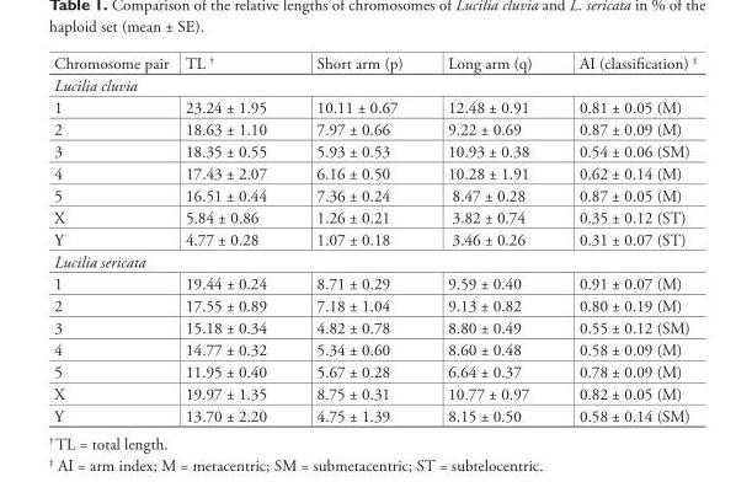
<table><thead><tr><td>Chromosome pair</td><td>TL <sup>†</sup></td><td>Short arm (p)</td><td>Long arm (q)</td><td>AI (classification) <sup>‡</sup></td></tr></thead><tbody><tr><td colspan="5">Lucilia cluvia</td></tr><tr><td>1</td><td>23.24 ± 1.95</td><td>10.11 ± 0.67</td><td>12.48 ± 0.91</td><td>0.81 ± 0.05 (M)</td></tr><tr><td>2</td><td>18.63 ± 1.10</td><td>7.97 ± 0.66</td><td>9.22 ± 0.69</td><td>0.87 ± 0.09 (M)</td></tr><tr><td>3</td><td>18.35 ± 0.55</td><td>5.93 ± 0.53</td><td>10.93 ± 0.38</td><td>0.54 ± 0.06 (SM)</td></tr><tr><td>4</td><td>17.43 ± 2.07</td><td>6.16 ± 0.50</td><td>10.28 ± 1.91</td><td>0.62 ± 0.14 (M)</td></tr><tr><td>5</td><td>16.51 ± 0.44</td><td>7.36 ± 0.24</td><td>8.47 ± 0.28</td><td>0.87 ± 0.05 (M)</td></tr><tr><td>X</td><td>5.84 ± 0.86</td><td>1.26 ± 0.21</td><td>3.82 ± 0.74</td><td>0.35 ± 0.12 (ST)</td></tr><tr><td>Y</td><td>4.77 ± 0.28</td><td>1.07 ± 0.18</td><td>3.46 ± 0.26</td><td>0.31 ± 0.07 (ST)</td></tr><tr><td colspan="5">Lucilia sericata</td></tr><tr><td>1</td><td>19.44 ± 0.24</td><td>8.71 ± 0.29</td><td>9.59 ± 0.40</td><td>0.91 ± 0.07 (M)</td></tr><tr><td>2</td><td>17.55 ± 0.89</td><td>7.18 ± 1.04</td><td>9.13 ± 0.82</td><td>0.80 ± 0.19 (M)</td></tr><tr><td>3</td><td>15.18 ± 0.34</td><td>4.82 ± 0.78</td><td>8.80 ± 0.49</td><td>0.55 ± 0.12 (SM)</td></tr><tr><td>4</td><td>14.77 ± 0.32</td><td>5.34 ± 0.60</td><td>8.60 ± 0.48</td><td>0.58 ± 0.09 (M)</td></tr><tr><td>5</td><td>11.95 ± 0.40</td><td>5.67 ± 0.28</td><td>6.64 ± 0.37</td><td>0.78 ± 0.09 (M)</td></tr><tr><td>X</td><td>19.97 ± 1.35</td><td>8.75 ± 0.31</td><td>10.77 ± 0.97</td><td>0.82 ± 0.05 (M)</td></tr><tr><td>Y</td><td>13.70 ± 2.20</td><td>4.75 ± 1.39</td><td>8.15 ± 0.50</td><td>0.58 ± 0.14 (SM)</td></tr></tbody></table>